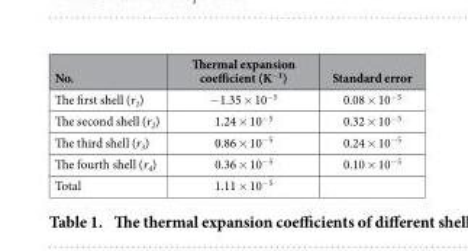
<table><thead><tr><td>No.</td><td>Thermal expansion coefficient (K<sup>−1</sup>)</td><td>Standard error</td></tr></thead><tbody><tr><td>The first shell (r<sub>1</sub>)</td><td>− 1.35 × 10<sup>−5</sup></td><td>0.08 × 10<sup>−5</sup></td></tr><tr><td>The second shell (r<sub>2</sub>)</td><td>1.24 × 10<sup>−5</sup></td><td>0.32 × 10<sup>−5</sup></td></tr><tr><td>The third shell (r<sub>3</sub>)</td><td>0.86 × 10<sup>−5</sup></td><td>0.24 × 10<sup>−5</sup></td></tr><tr><td>The fourth shell (r<sub>4</sub>)</td><td>0.36 × 10<sup>−5</sup></td><td>0.10 × 10<sup>−5</sup></td></tr><tr><td>Total</td><td>1.11 × 10<sup>−5</sup></td><td></td></tr></tbody></table>